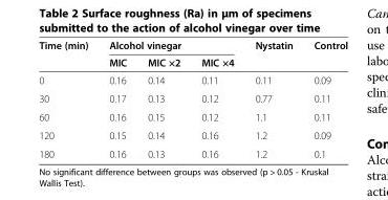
<table><thead><tr><td rowspan="2">Time (min)</td><td colspan="3">Alcohol vinegar</td><td rowspan="2">Nystatin</td><td rowspan="2">Control</td></tr><tr><td>MIC</td><td>MIC ×2</td><td>MIC ×4</td></tr></thead><tbody><tr><td>0</td><td>0.16</td><td>0.14</td><td>0.11</td><td>0.11</td><td>0.09</td></tr><tr><td>30</td><td>0.17</td><td>0.13</td><td>0.12</td><td>0.77</td><td>0.11</td></tr><tr><td>60</td><td>0.16</td><td>0.15</td><td>0.12</td><td>1.1</td><td>0.11</td></tr><tr><td>120</td><td>0.15</td><td>0.14</td><td>0.16</td><td>1.2</td><td>0.09</td></tr><tr><td>180</td><td>0.16</td><td>0.13</td><td>0.16</td><td>1.2</td><td>0.1</td></tr></tbody></table>